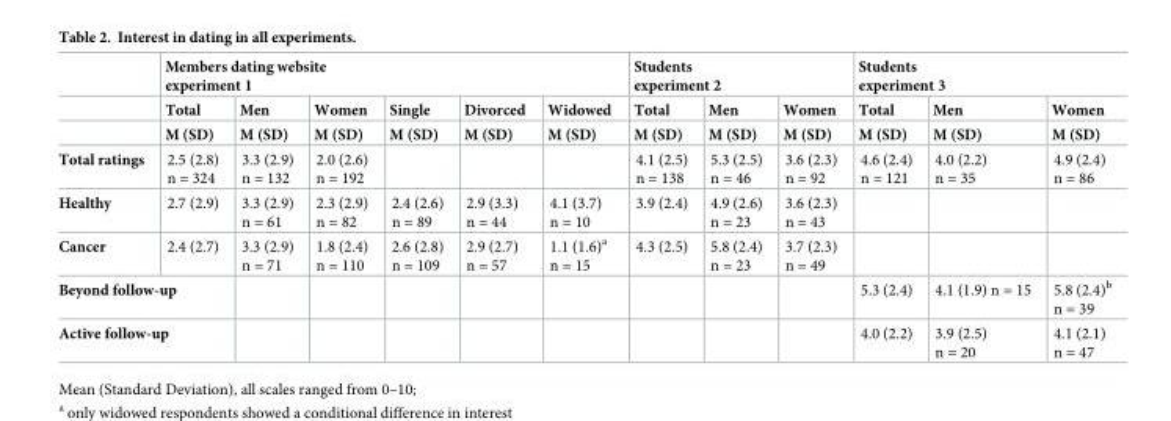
<table><thead><tr><td rowspan="3"></td><td colspan="6">Members dating website experiment 1</td><td colspan="3">Students experiment 2</td><td colspan="3">Students experiment 3</td></tr><tr><td rowspan="2">Total M (SD)</td><td rowspan="2">Men M (SD)</td><td rowspan="2">Women M (SD)</td><td rowspan="2">Single M (SD)</td><td rowspan="2">Divorced M (SD)</td><td rowspan="2">Widowed M (SD)</td><td rowspan="2">Total M (SD)</td><td rowspan="2">Men M (SD)</td><td rowspan="2">Women M (SD)</td><td rowspan="2">Total M (SD)</td><td rowspan="2">Men M (SD)</td><td rowspan="2">Women M (SD)</td></tr><tr></tr></thead><tbody><tr><td>Total ratings</td><td>2.5 (2.8) n = 324</td><td>3.3 (2.9) n = 132</td><td>2.0 (2.6) n = 192</td><td></td><td></td><td></td><td>4.1 (2.5) n = 138</td><td>5.3 (2.5) n = 46</td><td>3.6 (2.3) n = 92</td><td>4.6 (2.4) n = 121</td><td>4.0 (2.2) n = 35</td><td>4.9 (2.4) n = 86</td></tr><tr><td>Healthy</td><td>2.7 (2.9)</td><td>3.3 (2.9) n = 61</td><td>2.3 (2.9) n = 82</td><td>2.4 (2.6) n = 89</td><td>2.9 (3.3) n = 44</td><td>4.1 (3.7) n = 10</td><td>3.9 (2.4)</td><td>4.9 (2.6) n = 23</td><td>3.6 (2.3) n = 43</td><td></td><td></td><td></td></tr><tr><td>Cancer</td><td>2.4 (2.7)</td><td>3.3 (2.9) n = 71</td><td>1.8 (2.4) n = 110</td><td>2.6 (2.8) n = 109</td><td>2.9 (2.7) n = 57</td><td>1.1 (1.6)<sup>a</sup> n = 15</td><td>4.3 (2.5)</td><td>5.8 (2.4) n = 23</td><td>3.7 (2.3) n = 49</td><td></td><td></td><td></td></tr><tr><td colspan="2">Beyond follow-up</td><td></td><td></td><td></td><td></td><td></td><td></td><td></td><td></td><td>5.3 (2.4)</td><td>4.1 (1.9) n = 15</td><td>5.8 (2.4)<sup>b</sup> n = 39</td></tr><tr><td colspan="2">Active follow-up</td><td></td><td></td><td></td><td></td><td></td><td></td><td></td><td></td><td>4.0 (2.2)</td><td>3.9 (2.5) n = 20</td><td>4.1 (2.1) n = 47</td></tr></tbody></table>